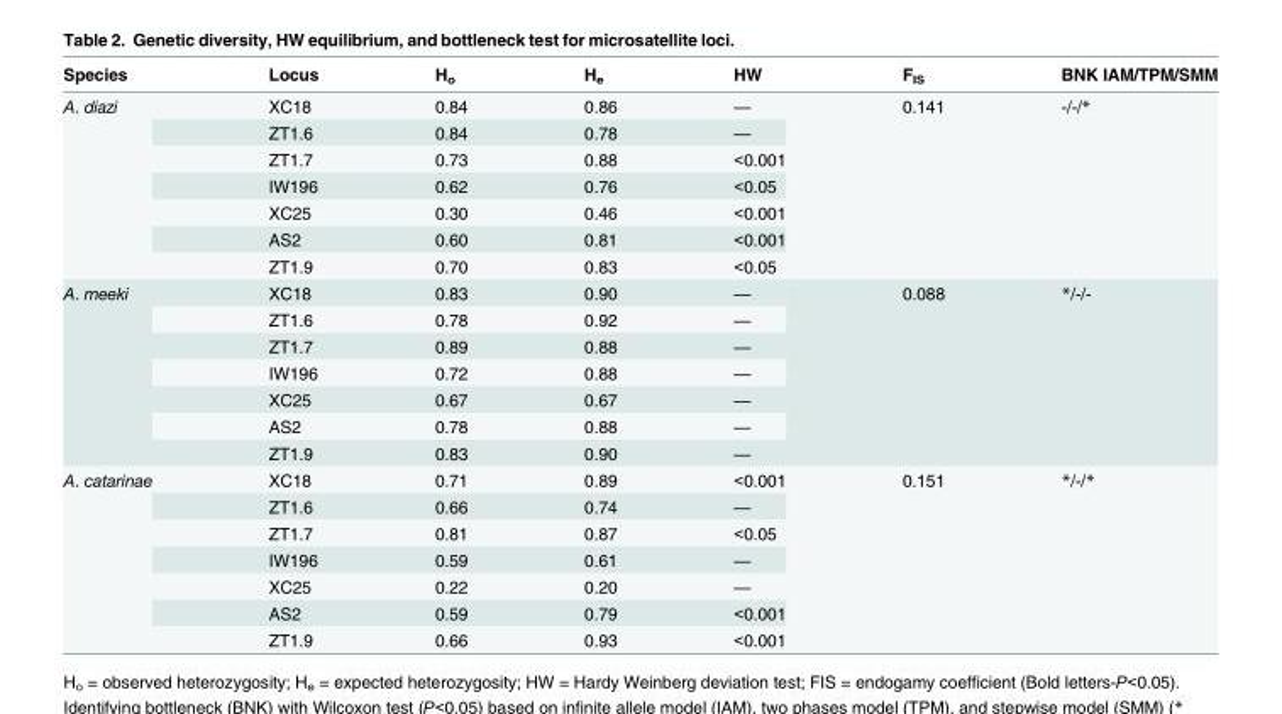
<table><thead><tr><td>Species</td><td>Locus</td><td>H<sub>o</sub></td><td>H<sub>e</sub></td><td>HW</td><td>F<sub>IS</sub></td><td>BNK IAM/TPM/SMM</td></tr></thead><tbody><tr><td rowspan="7">A. diazi</td><td>XC18</td><td>0.84</td><td>0.86</td><td>—</td><td rowspan="7">0.141</td><td rowspan="7">-/-/*</td></tr><tr><td>ZT1.6</td><td>0.84</td><td>0.78</td><td>—</td></tr><tr><td>ZT1.7</td><td>0.73</td><td>0.88</td><td>&lt;0.001</td></tr><tr><td>IW196</td><td>0.62</td><td>0.76</td><td>&lt;0.05</td></tr><tr><td>XC25</td><td>0.30</td><td>0.46</td><td>&lt;0.001</td></tr><tr><td>AS2</td><td>0.60</td><td>0.81</td><td>&lt;0.001</td></tr><tr><td>ZT1.9</td><td>0.70</td><td>0.83</td><td>&lt;0.05</td></tr><tr><td rowspan="7">A. meeki</td><td>XC18</td><td>0.83</td><td>0.90</td><td>—</td><td rowspan="7">0.088</td><td rowspan="7">*/-/-</td></tr><tr><td>ZT1.6</td><td>0.78</td><td>0.92</td><td>—</td></tr><tr><td>ZT1.7</td><td>0.89</td><td>0.88</td><td>—</td></tr><tr><td>IW196</td><td>0.72</td><td>0.88</td><td>—</td></tr><tr><td>XC25</td><td>0.67</td><td>0.67</td><td>—</td></tr><tr><td>AS2</td><td>0.78</td><td>0.88</td><td>—</td></tr><tr><td>ZT1.9</td><td>0.83</td><td>0.90</td><td>—</td></tr><tr><td rowspan="7">A. catarinae</td><td>XC18</td><td>0.71</td><td>0.89</td><td>&lt;0.001</td><td rowspan="7">0.151</td><td rowspan="7">*/-/*</td></tr><tr><td>ZT1.6</td><td>0.66</td><td>0.74</td><td>—</td></tr><tr><td>ZT1.7</td><td>0.81</td><td>0.87</td><td>&lt;0.05</td></tr><tr><td>IW196</td><td>0.59</td><td>0.61</td><td>—</td></tr><tr><td>XC25</td><td>0.22</td><td>0.20</td><td>—</td></tr><tr><td>AS2</td><td>0.59</td><td>0.79</td><td>&lt;0.001</td></tr><tr><td>ZT1.9</td><td>0.66</td><td>0.93</td><td>&lt;0.001</td></tr></tbody></table>